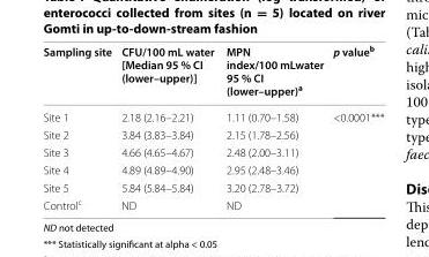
<table><thead><tr><td>Sampling site</td><td>CFU/100 mL water [Median 95 % CI (lower–upper)]</td><td>MPN index/100 mLwater 95 % CI (lower–upper)<sup>a</sup></td><td>p value<sup>b</sup></td></tr></thead><tbody><tr><td>Site 1</td><td>2.18 (2.16–2.21)</td><td>1.11 (0.70–1.58)</td><td rowspan="6">&lt;0.0001***</td></tr><tr><td>Site 2</td><td>3.84 (3.83–3.84)</td><td>2.15 (1.78–2.56)</td></tr><tr><td>Site 3</td><td>4.66 (4.65–4.67)</td><td>2.48 (2.00–3.11)</td></tr><tr><td>Site 4</td><td>4.89 (4.89–4.90)</td><td>2.95 (2.48–3.46)</td></tr><tr><td>Site 5</td><td>5.84 (5.84–5.84)</td><td>3.20 (2.78–3.72)</td></tr><tr><td>Control<sup>c</sup></td><td>ND</td><td>ND</td></tr></tbody></table>